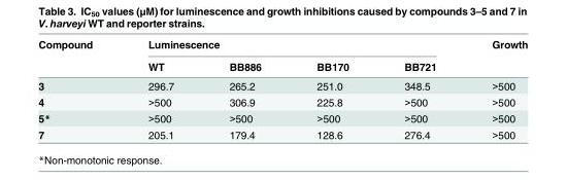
<table><thead><tr><td rowspan="2">Compound</td><td colspan="4">Luminescence</td><td rowspan="2">Growth</td></tr><tr><td>WT</td><td>BB886</td><td>BB170</td><td>BB721</td></tr></thead><tbody><tr><td>3</td><td>296.7</td><td>265.2</td><td>251.0</td><td>348.5</td><td>&gt;500</td></tr><tr><td>4</td><td>&gt;500</td><td>306.9</td><td>225.8</td><td>&gt;500</td><td>&gt;500</td></tr><tr><td>5*</td><td>&gt;500</td><td>&gt;500</td><td>&gt;500</td><td>&gt;500</td><td>&gt;500</td></tr><tr><td>7</td><td>205.1</td><td>179.4</td><td>128.6</td><td>276.4</td><td>&gt;500</td></tr></tbody></table>